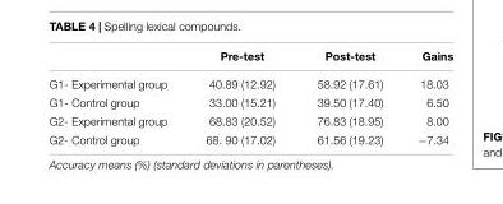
<table><thead><tr><td></td><td>Pre-test</td><td>Post-test</td><td>Gains</td></tr></thead><tbody><tr><td>G1- Experimental group</td><td>40.89 (12.92)</td><td>58.92 (17.61)</td><td>18.03</td></tr><tr><td>G1- Control group</td><td>33.00 (15.21)</td><td>39.50 (17.40)</td><td>6.50</td></tr><tr><td>G2- Experimental group</td><td>68.83 (20.52)</td><td>76.83 (18.95)</td><td>8.00</td></tr><tr><td>G2- Control group</td><td>68. 90 (17.02)</td><td>61.56 (19.23)</td><td>−7.34</td></tr></tbody></table>